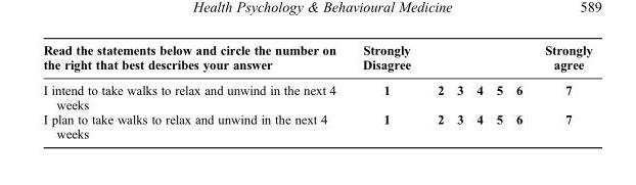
<table><thead><tr><td>Read the statements below and circle the number on the right that best describes your answer</td><td>Strongly Disagree</td><td></td><td></td><td></td><td></td><td></td><td>Strongly agree</td></tr></thead><tbody><tr><td>I intend to take walks to relax and unwind in the next 4 weeks</td><td>1</td><td>2</td><td>3</td><td>4</td><td>5</td><td>6</td><td>7</td></tr><tr><td>I plan to take walks to relax and unwind in the next 4 weeks</td><td>1</td><td>2</td><td>3</td><td>4</td><td>5</td><td>6</td><td>7</td></tr></tbody></table>